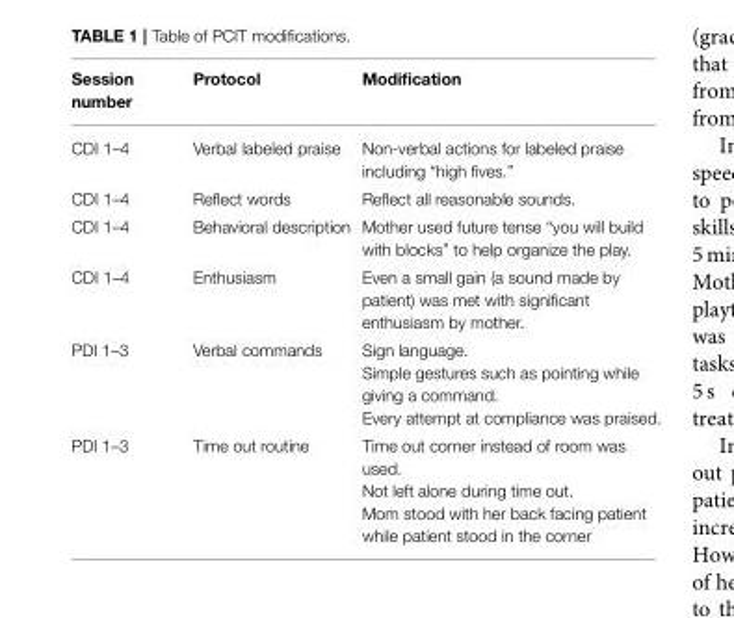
<table><thead><tr><td>Session number</td><td>Protocol</td><td>Modification</td></tr></thead><tbody><tr><td>CDI 1–4</td><td>Verbal labeled praise</td><td>Non-verbal actions for labeled praise including “high fives.”</td></tr><tr><td>CDI 1–4</td><td>Reflect words</td><td>Reflect all reasonable sounds.</td></tr><tr><td>CDI 1–4</td><td>Behavioral description</td><td>Mother used future tense “you will build with blocks” to help organize the play.</td></tr><tr><td>CDI 1–4</td><td>Enthusiasm</td><td>Even a small gain (a sound made by patient) was met with significant enthusiasm by mother.</td></tr><tr><td>PDI 1–3</td><td>Verbal commands</td><td>Sign language. Simple gestures such as pointing while giving a command. Every attempt at compliance was praised.</td></tr><tr><td>PDI 1–3</td><td>Time out routine</td><td>Time out corner instead of room was used. Not left alone during time out. Mom stood with her back facing patient while patient stood in the corner</td></tr></tbody></table>